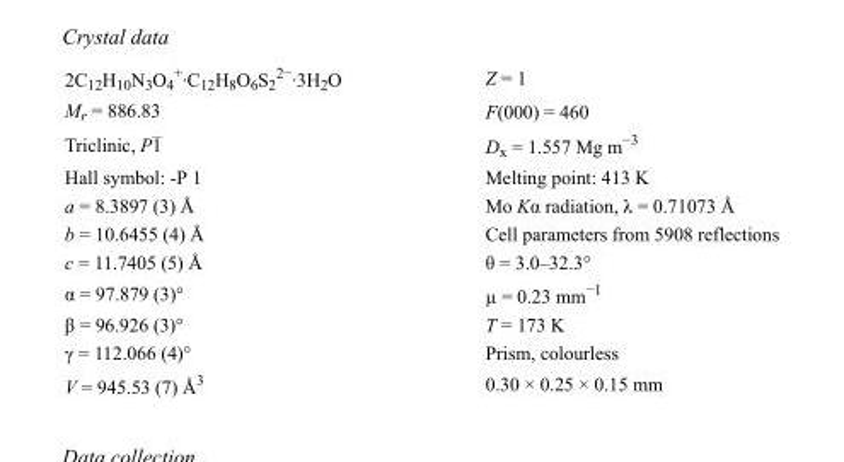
<table><tbody><tr><td>2C<sub>12</sub>H<sub>10</sub>N<sub>3</sub>O<sub>4</sub> <sup>+</sup>·C<sub>12</sub>H<sub>8</sub>O<sub>6</sub>S<sub>2</sub> <sup>2−</sup>·3H<sub>2</sub>O</td><td>Z = 1</td></tr><tr><td>M<sub>r</sub> = 886.83</td><td>F(000) = 460</td></tr><tr><td>Triclinic, P1</td><td>D<sub>x</sub> = 1.557 Mg m<sup>−3</sup></td></tr><tr><td>Hall symbol: -P 1</td><td>Melting point: 413 K</td></tr><tr><td>a = 8.3897 (3) Å</td><td>Mo Kα radiation, λ = 0.71073 Å</td></tr><tr><td>b = 10.6455 (4) Å</td><td>Cell parameters from 5908 reflections</td></tr><tr><td>c = 11.7405 (5) Å</td><td>θ = 3.0–32.3°</td></tr><tr><td>α = 97.879 (3)°</td><td>µ = 0.23 mm<sup>−1</sup></td></tr><tr><td>β = 96.926 (3)°</td><td>T = 173 K</td></tr><tr><td>γ = 112.066 (4)°</td><td>Prism, colourless</td></tr><tr><td>V = 945.53 (7) Å<sup>3</sup></td><td>0.30 × 0.25 × 0.15 mm</td></tr></tbody></table>